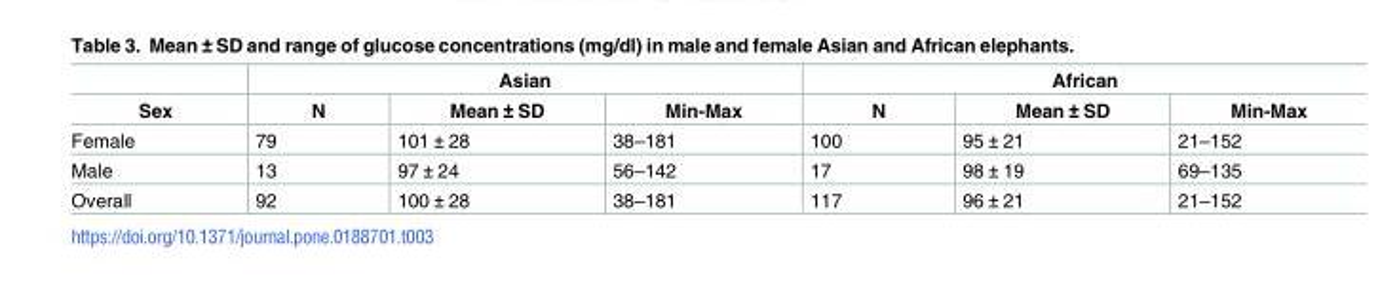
<table><thead><tr><td rowspan="2">Sex</td><td colspan="3">Asian</td><td colspan="3">African</td></tr><tr><td>N</td><td>Mean ± SD</td><td>Min-Max</td><td>N</td><td>Mean ± SD</td><td>Min-Max</td></tr></thead><tbody><tr><td>Female</td><td>79</td><td>101 ± 28</td><td>38–181</td><td>100</td><td>95 ± 21</td><td>21–152</td></tr><tr><td>Male</td><td>13</td><td>97 ± 24</td><td>56–142</td><td>17</td><td>98 ± 19</td><td>69–135</td></tr><tr><td>Overall</td><td>92</td><td>100 ± 28</td><td>38–181</td><td>117</td><td>96 ± 21</td><td>21–152</td></tr></tbody></table>